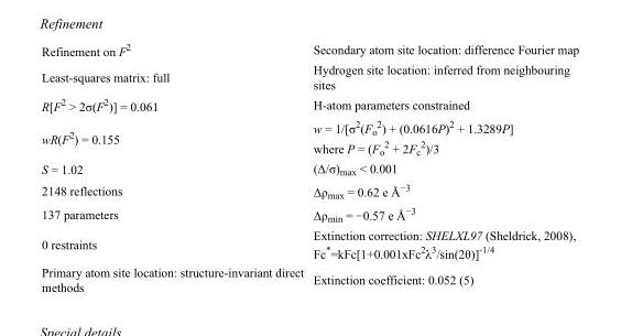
<table><tbody><tr><td>Refinement on F<sup>2</sup></td><td>Secondary atom site location: difference Fourier map</td></tr><tr><td>Least-squares matrix: full</td><td>Hydrogen site location: inferred from neighbouring sites</td></tr><tr><td>R[F<sup>2</sup> &gt; 2σ(F<sup>2</sup>)] = 0.061</td><td>H-atom parameters constrained</td></tr><tr><td>wR(F<sup>2</sup>) = 0.155</td><td>w = 1/[σ<sup>2</sup>(F<sub>o</sub> <sup>2</sup>) + (0.0616P)<sup>2</sup> + 1.3289P] where P = (F<sub>o</sub> <sup>2</sup> + 2F<sub>c</sub> <sup>2</sup>)/3</td></tr><tr><td>S = 1.02</td><td>(Δ/σ)<sub>max</sub> &lt; 0.001</td></tr><tr><td>2148 reflections</td><td>Δρ<sub>max</sub> = 0.62 e Å<sup>−3</sup></td></tr><tr><td>137 parameters</td><td>Δρ<sub>min</sub> = −0.57 e Å<sup>−3</sup></td></tr><tr><td>0 restraints</td><td>Extinction correction: SHELXL97 (Sheldrick, 2008), Fc*=kFc[1+0.001xFc<sup>2</sup>λ<sup>3</sup>/sin(2θ)]<sup>-1/4</sup></td></tr><tr><td>Primary atom site location: structure-invariant direct methods</td><td>Extinction coefficient: 0.052 (5)</td></tr></tbody></table>